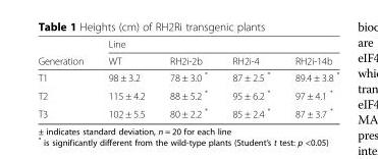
<table><thead><tr><td rowspan="2">Generation</td><td colspan="4">Line</td></tr><tr><td>WT</td><td>RH2i-2b</td><td>RH2i-4</td><td>RH2i-14b</td></tr></thead><tbody><tr><td>T1</td><td>98 ± 3.2</td><td>78 ± 3.0 *</td><td>87 ± 2.5 *</td><td>89.4 ± 3.8 *</td></tr><tr><td>T2</td><td>115 ± 4.2</td><td>88 ± 5.2 *</td><td>95 ± 6.2 *</td><td>97 ± 4.1 *</td></tr><tr><td>T3</td><td>102 ± 5.5</td><td>80 ± 2.2 *</td><td>85 ± 2.4 *</td><td>87 ± 3.7 *</td></tr></tbody></table>